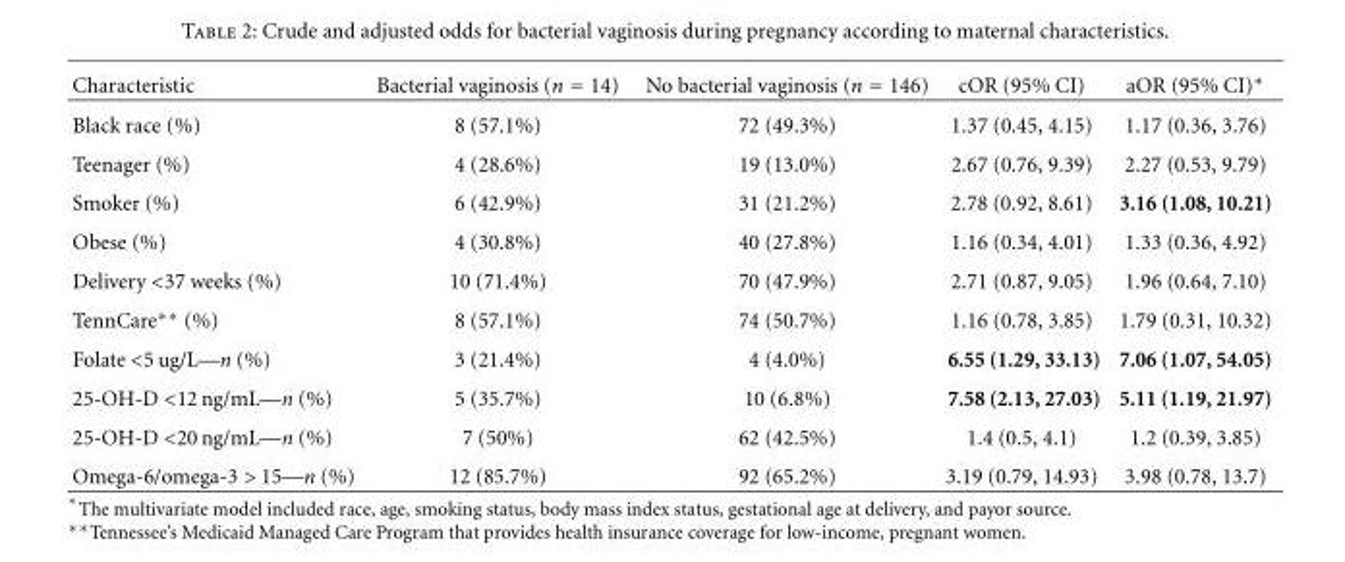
<table><thead><tr><td>Characteristic</td><td>Bacterial vaginosis (n = 14)</td><td>No bacterial vaginosis (n = 146)</td><td>cOR (95% CI)</td><td>aOR (95% CI)∗</td></tr></thead><tbody><tr><td>Black race (%)</td><td>8 (57.1%)</td><td>72 (49.3%)</td><td>1.37 (0.45, 4.15)</td><td>1.17 (0.36, 3.76)</td></tr><tr><td>Teenager (%)</td><td>4 (28.6%)</td><td>19 (13.0%)</td><td>2.67 (0.76, 9.39)</td><td>2.27 (0.53, 9.79)</td></tr><tr><td>Smoker (%)</td><td>6 (42.9%)</td><td>31 (21.2%)</td><td>2.78 (0.92, 8.61)</td><td>3.16 (1.08, 10.21)</td></tr><tr><td>Obese (%)</td><td>4 (30.8%)</td><td>40 (27.8%)</td><td>1.16 (0.34, 4.01)</td><td>1.33 (0.36, 4.92)</td></tr><tr><td>Delivery &lt;37 weeks (%)</td><td>10 (71.4%)</td><td>70 (47.9%)</td><td>2.71 (0.87, 9.05)</td><td>1.96 (0.64, 7.10)</td></tr><tr><td>TennCare∗∗ (%)</td><td>8 (57.1%)</td><td>74 (50.7%)</td><td>1.16 (0.78, 3.85)</td><td>1.79 (0.31, 10.32)</td></tr><tr><td>Folate &lt;5 ug/L—n (%)</td><td>3 (21.4%)</td><td>4 (4.0%)</td><td>6.55 (1.29, 33.13)</td><td>7.06 (1.07, 54.05)</td></tr><tr><td>25-OH-D &lt;12 ng/mL—n (%)</td><td>5 (35.7%)</td><td>10 (6.8%)</td><td>7.58 (2.13, 27.03)</td><td>5.11 (1.19, 21.97)</td></tr><tr><td>25-OH-D &lt;20 ng/mL—n (%)</td><td>7 (50%)</td><td>62 (42.5%)</td><td>1.4 (0.5, 4.1)</td><td>1.2 (0.39, 3.85)</td></tr><tr><td>Omega-6/omega-3 &gt; 15—n (%)</td><td>12 (85.7%)</td><td>92 (65.2%)</td><td>3.19 (0.79, 14.93)</td><td>3.98 (0.78, 13.7)</td></tr></tbody></table>